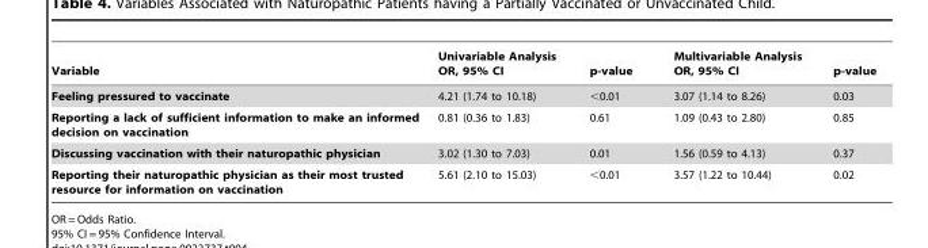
<table><thead><tr><td>Variable</td><td>Univariable Analysis OR, 95% CI</td><td>p-value</td><td>Multivariable Analysis OR, 95% CI</td><td>p-value</td></tr></thead><tbody><tr><td>Feeling pressured to vaccinate</td><td>4.21 (1.74 to 10.18)</td><td>&lt;0.01</td><td>3.07 (1.14 to 8.26)</td><td>0.03</td></tr><tr><td>Reporting a lack of sufficient information to make an informed decision on vaccination</td><td>0.81 (0.36 to 1.83)</td><td>0.61</td><td>1.09 (0.43 to 2.80)</td><td>0.85</td></tr><tr><td>Discussing vaccination with their naturopathic physician</td><td>3.02 (1.30 to 7.03)</td><td>0.01</td><td>1.56 (0.59 to 4.13)</td><td>0.37</td></tr><tr><td>Reporting their naturopathic physician as their most trusted resource for information on vaccination</td><td>5.61 (2.10 to 15.03)</td><td>&lt;0.01</td><td>3.57 (1.22 to 10.44)</td><td>0.02</td></tr></tbody></table>